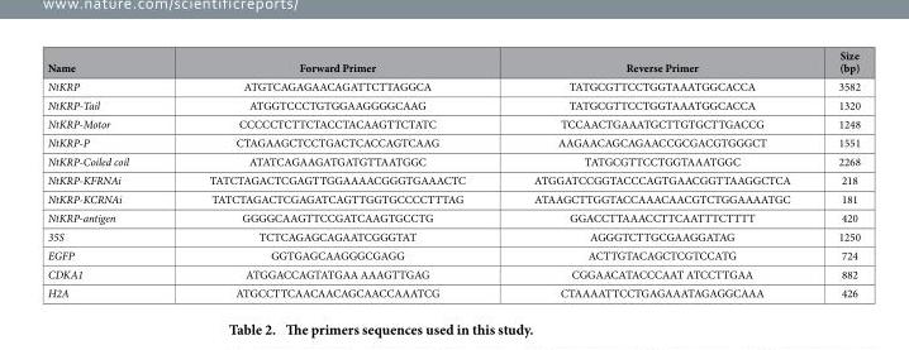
<table><thead><tr><td>Name</td><td>Forward Primer</td><td>Reverse Primer</td><td>Size (bp)</td></tr></thead><tbody><tr><td>NtKRP</td><td>ATGTCAGAGAACAGATTCTTAGGCA</td><td>TATGCGTTCCTGGTAAATGGCACCA</td><td>3582</td></tr><tr><td>NtKRP-Tail</td><td>ATGGTCCCTGTGGAAGGGGCAAG</td><td>TATGCGTTCCTGGTAAATGGCACCA</td><td>1320</td></tr><tr><td>NtKRP-Motor</td><td>CCCCCTCTTCTACCTACAAGTTCTATC</td><td>TCCAACTGAAATGCTTGTGCTTGACCG</td><td>1248</td></tr><tr><td>NtKRP-P</td><td>CTAGAAGCTCCTGACTCACCAGTCAAG</td><td>AAGAACAGCAGAACCGCGACGTGGGCT</td><td>1551</td></tr><tr><td>NtKRP-Coiled coil</td><td>ATATCAGAAGATGATGTTAATGGC</td><td>TATGCGTTCCTGGTAAATGGC</td><td>2268</td></tr><tr><td>NtKRP-KFRNAi</td><td>TATCTAGACTCGAGTTGGAAAACGGGTGAAACTC</td><td>ATGGATCCGGTACCCAGTGAACGGTTAAGGCTCA</td><td>218</td></tr><tr><td>NtKRP-KCRNAi</td><td>TATCTAGACTCGAGATCAGTTGGTGCCCCTTTAG</td><td>ATAAGCTTGGTACCAAACAACGTCTGGAAAATGC</td><td>181</td></tr><tr><td>NtKRP-antigen</td><td>GGGGCAAGTTCCGATCAAGTGCCTG</td><td>GGACCTTAAACCTTCAATTTCTTTT</td><td>420</td></tr><tr><td>35S</td><td>TCTCAGAGCAGAATCGGGTAT</td><td>AGGGTCTTGCGAAGGATAG</td><td>1250</td></tr><tr><td>EGFP</td><td>GGTGAGCAAGGGCGAGG</td><td>ACTTGTACAGCTCGTCCATG</td><td>724</td></tr><tr><td>CDKA1</td><td>ATGGACCAGTATGAA AAAGTTGAG</td><td>CGGAACATACCCAAT ATCCTTGAA</td><td>882</td></tr><tr><td>H2A</td><td>ATGCCTTCAACAACAGCAACCAAATCG</td><td>CTAAAATTCCTGAGAAATAGAGGCAAA</td><td>426</td></tr></tbody></table>